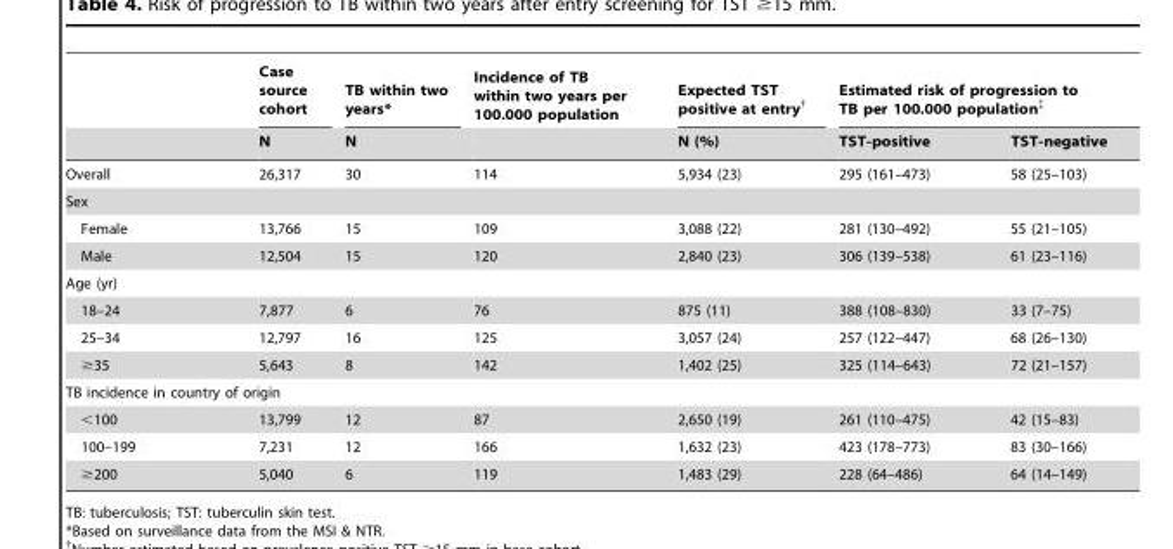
<table><thead><tr><td rowspan="2"></td><td rowspan="2">Case source cohort N</td><td rowspan="2">TB within two years* N</td><td rowspan="2">Incidence of TB within two years per 100.000 population</td><td rowspan="2">Expected TST positive at entry† N (%)</td><td colspan="2">Estimated risk of progression to TB per 100.000 population‡</td></tr><tr><td>TST-positive</td><td>TST-negative</td></tr></thead><tbody><tr><td>Overall</td><td>26,317</td><td>30</td><td>114</td><td>5,934 (23)</td><td>295 (161–473)</td><td>58 (25–103)</td></tr><tr><td colspan="7">Sex</td></tr><tr><td>Female</td><td>13,766</td><td>15</td><td>109</td><td>3,088 (22)</td><td>281 (130–492)</td><td>55 (21–105)</td></tr><tr><td>Male</td><td>12,504</td><td>15</td><td>120</td><td>2,840 (23)</td><td>306 (139–538)</td><td>61 (23–116)</td></tr><tr><td colspan="7">Age (yr)</td></tr><tr><td>18–24</td><td>7,877</td><td>6</td><td>76</td><td>875 (11)</td><td>388 (108–830)</td><td>33 (7–75)</td></tr><tr><td>25–34</td><td>12,797</td><td>16</td><td>125</td><td>3,057 (24)</td><td>257 (122–447)</td><td>68 (26–130)</td></tr><tr><td>≥35</td><td>5,643</td><td>8</td><td>142</td><td>1,402 (25)</td><td>325 (114–643)</td><td>72 (21–157)</td></tr><tr><td colspan="7">TB incidence in country of origin</td></tr><tr><td>&lt;100</td><td>13,799</td><td>12</td><td>87</td><td>2,650 (19)</td><td>261 (110–475)</td><td>42 (15–83)</td></tr><tr><td>100–199</td><td>7,231</td><td>12</td><td>166</td><td>1,632 (23)</td><td>423 (178–773)</td><td>83 (30–166)</td></tr><tr><td>≥200</td><td>5,040</td><td>6</td><td>119</td><td>1,483 (29)</td><td>228 (64–486)</td><td>64 (14–149)</td></tr></tbody></table>